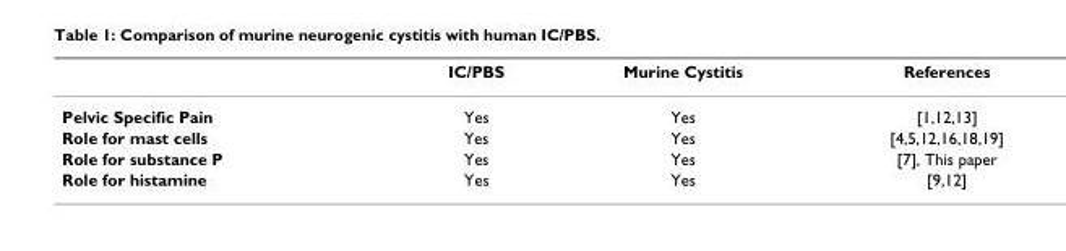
<table><thead><tr><td></td><td>IC/PBS</td><td>Murine Cystitis</td><td>References</td></tr></thead><tbody><tr><td>Pelvic Specific Pain</td><td>Yes</td><td>Yes</td><td>[1,12,13]</td></tr><tr><td>Role for mast cells</td><td>Yes</td><td>Yes</td><td>[4,5,12,16,18,19]</td></tr><tr><td>Role for substance P</td><td>Yes</td><td>Yes</td><td>[7], This paper</td></tr><tr><td>Role for histamine</td><td>Yes</td><td>Yes</td><td>[9,12]</td></tr></tbody></table>